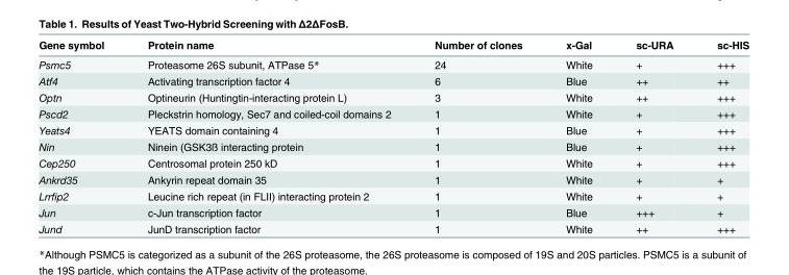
<table><thead><tr><td>Gene symbol</td><td>Protein name</td><td>Number of clones</td><td>x-Gal</td><td>sc-URA</td><td>sc-HIS</td></tr></thead><tbody><tr><td>Psmc5</td><td>Proteasome 26S subunit, ATPase 5*</td><td>24</td><td>White</td><td>+</td><td>+++</td></tr><tr><td>Atf4</td><td>Activating transcription factor 4</td><td>6</td><td>Blue</td><td>++</td><td>++</td></tr><tr><td>Optn</td><td>Optineurin (Huntingtin-interacting protein L)</td><td>3</td><td>White</td><td>++</td><td>+++</td></tr><tr><td>Pscd2</td><td>Pleckstrin homology, Sec7 and coiled-coil domains 2</td><td>1</td><td>White</td><td>+</td><td>+++</td></tr><tr><td>Yeats4</td><td>YEATS domain containing 4</td><td>1</td><td>Blue</td><td>+</td><td>+++</td></tr><tr><td>Nin</td><td>Ninein (GSK3ß interacting protein</td><td>1</td><td>Blue</td><td>+</td><td>+++</td></tr><tr><td>Cep250</td><td>Centrosomal protein 250 kD</td><td>1</td><td>White</td><td>+</td><td>+++</td></tr><tr><td>Ankrd35</td><td>Ankyrin repeat domain 35</td><td>1</td><td>White</td><td>+</td><td>+</td></tr><tr><td>Lrrfip2</td><td>Leucine rich repeat (in FLII) interacting protein 2</td><td>1</td><td>White</td><td>+</td><td>+</td></tr><tr><td>Jun</td><td>c-Jun transcription factor</td><td>1</td><td>Blue</td><td>+++</td><td>+</td></tr><tr><td>Jund</td><td>JunD transcription factor</td><td>1</td><td>White</td><td>++</td><td>+++</td></tr></tbody></table>